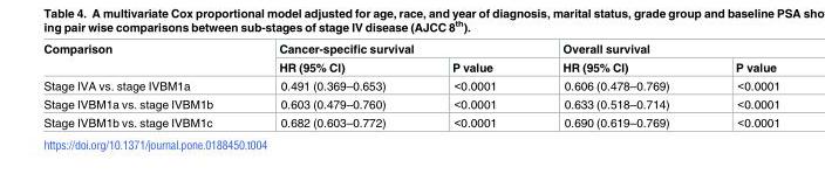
<table><thead><tr><td rowspan="2">Comparison</td><td colspan="2">Cancer-specific survival</td><td colspan="2">Overall survival</td></tr><tr><td>HR (95% CI)</td><td>P value</td><td>HR (95% CI)</td><td>P value</td></tr></thead><tbody><tr><td>Stage IVA vs. stage IVBM1a</td><td>0.491 (0.369–0.653)</td><td>&lt;0.0001</td><td>0.606 (0.478–0.769)</td><td>&lt;0.0001</td></tr><tr><td>Stage IVBM1a vs. stage IVBM1b</td><td>0.603 (0.479–0.760)</td><td>&lt;0.0001</td><td>0.633 (0.518–0.714)</td><td>&lt;0.0001</td></tr><tr><td>Stage IVBM1b vs. stage IVBM1c</td><td>0.682 (0.603–0.772)</td><td>&lt;0.0001</td><td>0.690 (0.619–0.769)</td><td>&lt;0.0001</td></tr></tbody></table>